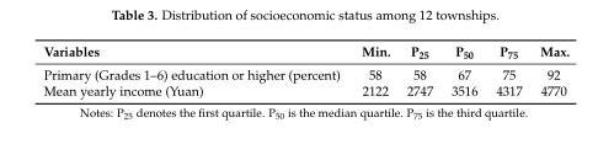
<table><thead><tr><td>Variables</td><td>Min.</td><td>P<sub>25</sub></td><td>P<sub>50</sub></td><td>P<sub>75</sub></td><td>Max.</td></tr></thead><tbody><tr><td>Primary (Grades 1–6) education or higher (percent)</td><td>58</td><td>58</td><td>67</td><td>75</td><td>92</td></tr><tr><td>Mean yearly income (Yuan)</td><td>2122</td><td>2747</td><td>3516</td><td>4317</td><td>4770</td></tr></tbody></table>